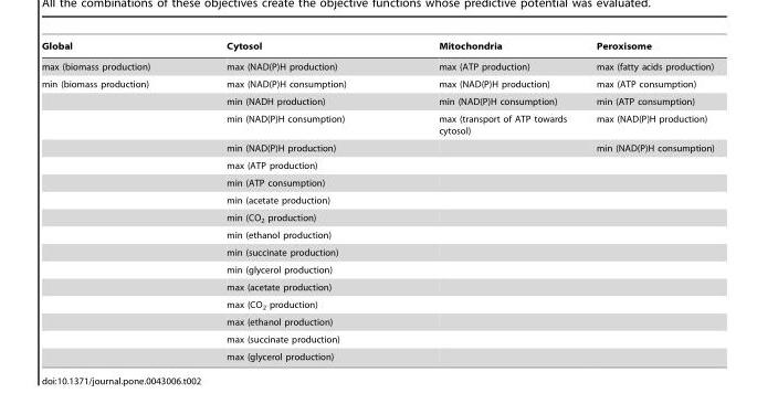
<table><thead><tr><td>Global</td><td>Cytosol</td><td>Mitochondria</td><td>Peroxisome</td></tr></thead><tbody><tr><td>max (biomass production)</td><td>max (NAD(P)H production)</td><td>max (ATP production)</td><td>max (fatty acids production)</td></tr><tr><td rowspan="16">min (biomass production)</td><td>max (NAD(P)H consumption)</td><td>max (NAD(P)H production)</td><td>max (ATP consumption)</td></tr><tr><td>min (NADH production)</td><td>min (NAD(P)H consumption)</td><td>min (ATP consumption)</td></tr><tr><td>min (NAD(P)H consumption)</td><td>max (transport of ATP towards cytosol)</td><td>max (NAD(P)H production)</td></tr><tr><td>min (NAD(P)H production)</td><td></td><td>min (NAD(P)H consumption)</td></tr><tr><td>max (ATP production)</td><td></td><td></td></tr><tr><td>min (ATP consumption)</td><td></td><td></td></tr><tr><td>min (acetate production)</td><td></td><td></td></tr><tr><td>min (CO<sub>2</sub> production)</td><td></td><td></td></tr><tr><td>min (ethanol production)</td><td></td><td></td></tr><tr><td>min (succinate production)</td><td></td><td></td></tr><tr><td>min (glycerol production)</td><td></td><td></td></tr><tr><td>max (acetate production)</td><td></td><td></td></tr><tr><td>max (CO<sub>2</sub> production)</td><td></td><td></td></tr><tr><td>max (ethanol production)</td><td></td><td></td></tr><tr><td>max (succinate production)</td><td></td><td></td></tr><tr><td>max (glycerol production)</td><td></td><td></td></tr></tbody></table>